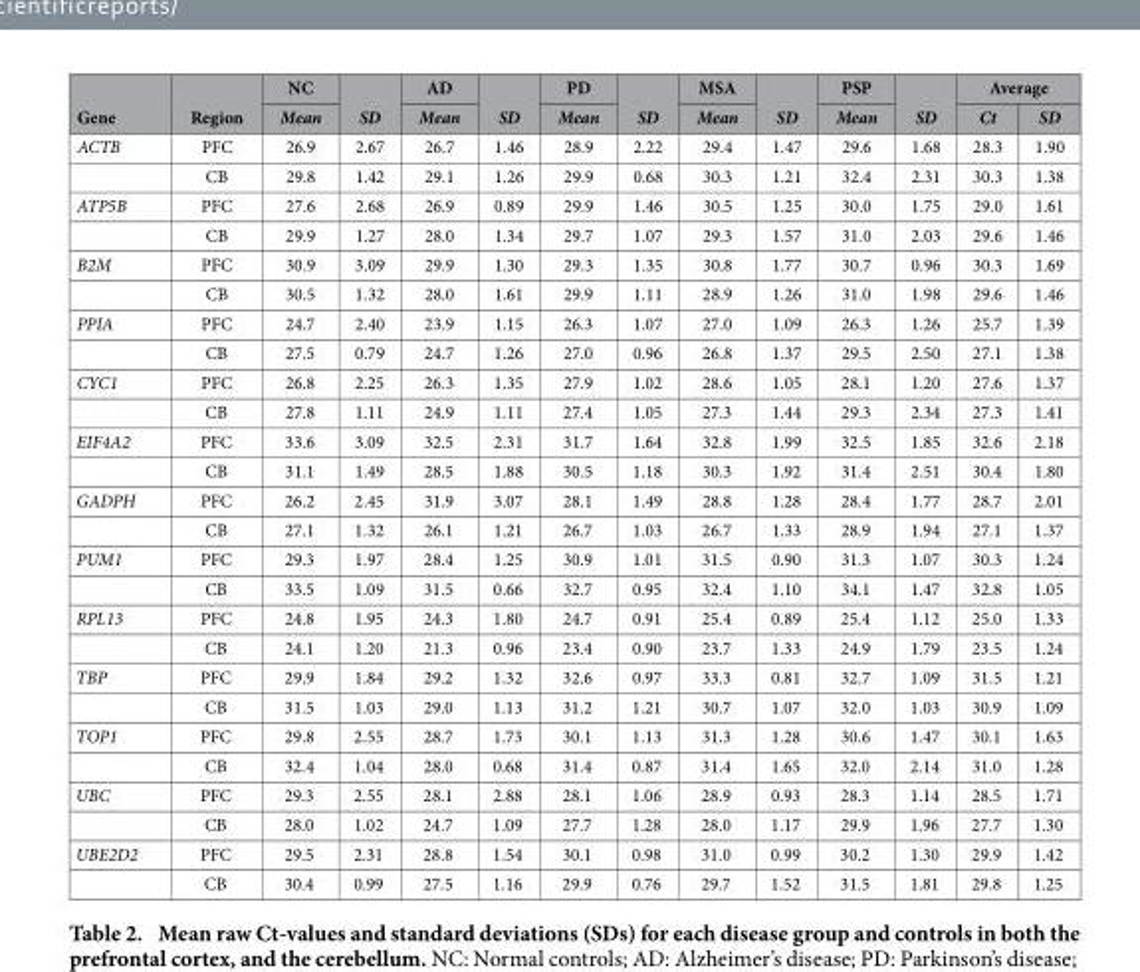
<table><thead><tr><td rowspan="2">Gene</td><td rowspan="2">Region</td><td rowspan="2">NC Mean</td><td rowspan="2">SD</td><td rowspan="2">AD Mean</td><td rowspan="2">SD</td><td rowspan="2">PD Mean</td><td rowspan="2">SD</td><td rowspan="2">MSA Mean</td><td rowspan="2">SD</td><td rowspan="2">PSP Mean</td><td rowspan="2">SD</td><td colspan="2">Average</td></tr><tr><td>Ct</td><td>SD</td></tr></thead><tbody><tr><td rowspan="2">ACTB</td><td>PFC</td><td>26.9</td><td>2.67</td><td>26.7</td><td>1.46</td><td>28.9</td><td>2.22</td><td>29.4</td><td>1.47</td><td>29.6</td><td>1.68</td><td>28.3</td><td>1.90</td></tr><tr><td>CB</td><td>29.8</td><td>1.42</td><td>29.1</td><td>1.26</td><td>29.9</td><td>0.68</td><td>30.3</td><td>1.21</td><td>32.4</td><td>2.31</td><td>30.3</td><td>1.38</td></tr><tr><td rowspan="2">ATP5B</td><td>PFC</td><td>27.6</td><td>2.68</td><td>26.9</td><td>0.89</td><td>29.9</td><td>1.46</td><td>30.5</td><td>1.25</td><td>30.0</td><td>1.75</td><td>29.0</td><td>1.61</td></tr><tr><td>CB</td><td>29.9</td><td>1.27</td><td>28.0</td><td>1.34</td><td>29.7</td><td>1.07</td><td>29.3</td><td>1.57</td><td>31.0</td><td>2.03</td><td>29.6</td><td>1.46</td></tr><tr><td rowspan="2">B2M</td><td>PFC</td><td>30.9</td><td>3.09</td><td>29.9</td><td>1.30</td><td>29.3</td><td>1.35</td><td>30.8</td><td>1.77</td><td>30.7</td><td>0.96</td><td>30.3</td><td>1.69</td></tr><tr><td>CB</td><td>30.5</td><td>1.32</td><td>28.0</td><td>1.61</td><td>29.9</td><td>1.11</td><td>28.9</td><td>1.26</td><td>31.0</td><td>1.98</td><td>29.6</td><td>1.46</td></tr><tr><td rowspan="2">PPIA</td><td>PFC</td><td>24.7</td><td>2.40</td><td>23.9</td><td>1.15</td><td>26.3</td><td>1.07</td><td>27.0</td><td>1.09</td><td>26.3</td><td>1.26</td><td>25.7</td><td>1.39</td></tr><tr><td>CB</td><td>27.5</td><td>0.79</td><td>24.7</td><td>1.26</td><td>27.0</td><td>0.96</td><td>26.8</td><td>1.37</td><td>29.5</td><td>2.50</td><td>27.1</td><td>1.38</td></tr><tr><td rowspan="2">CYC1</td><td>PFC</td><td>26.8</td><td>2.25</td><td>26.3</td><td>1.35</td><td>27.9</td><td>1.02</td><td>28.6</td><td>1.05</td><td>28.1</td><td>1.20</td><td>27.6</td><td>1.37</td></tr><tr><td>CB</td><td>27.8</td><td>1.11</td><td>24.9</td><td>1.11</td><td>27.4</td><td>1.05</td><td>27.3</td><td>1.44</td><td>29.3</td><td>2.34</td><td>27.3</td><td>1.41</td></tr><tr><td rowspan="2">EIF4A2</td><td>PFC</td><td>33.6</td><td>3.09</td><td>32.5</td><td>2.31</td><td>31.7</td><td>1.64</td><td>32.8</td><td>1.99</td><td>32.5</td><td>1.85</td><td>32.6</td><td>2.18</td></tr><tr><td>CB</td><td>31.1</td><td>1.49</td><td>28.5</td><td>1.88</td><td>30.5</td><td>1.18</td><td>30.3</td><td>1.92</td><td>31.4</td><td>2.51</td><td>30.4</td><td>1.80</td></tr><tr><td rowspan="2">GADPH</td><td>PFC</td><td>26.2</td><td>2.45</td><td>31.9</td><td>3.07</td><td>28.1</td><td>1.49</td><td>28.8</td><td>1.28</td><td>28.4</td><td>1.77</td><td>28.7</td><td>2.01</td></tr><tr><td>CB</td><td>27.1</td><td>1.32</td><td>26.1</td><td>1.21</td><td>26.7</td><td>1.03</td><td>26.7</td><td>1.33</td><td>28.9</td><td>1.94</td><td>27.1</td><td>1.37</td></tr><tr><td rowspan="2">PUM1</td><td>PFC</td><td>29.3</td><td>1.97</td><td>28.4</td><td>1.25</td><td>30.9</td><td>1.01</td><td>31.5</td><td>0.90</td><td>31.3</td><td>1.07</td><td>30.3</td><td>1.24</td></tr><tr><td>CB</td><td>33.5</td><td>1.09</td><td>31.5</td><td>0.66</td><td>32.7</td><td>0.95</td><td>32.4</td><td>1.10</td><td>34.1</td><td>1.47</td><td>32.8</td><td>1.05</td></tr><tr><td rowspan="2">RPL13</td><td>PFC</td><td>24.8</td><td>1.95</td><td>24.3</td><td>1.80</td><td>24.7</td><td>0.91</td><td>25.4</td><td>0.89</td><td>25.4</td><td>1.12</td><td>25.0</td><td>1.33</td></tr><tr><td>CB</td><td>24.1</td><td>1.20</td><td>21.3</td><td>0.96</td><td>23.4</td><td>0.90</td><td>23.7</td><td>1.33</td><td>24.9</td><td>1.79</td><td>23.5</td><td>1.24</td></tr><tr><td rowspan="2">TBP</td><td>PFC</td><td>29.9</td><td>1.84</td><td>29.2</td><td>1.32</td><td>32.6</td><td>0.97</td><td>33.3</td><td>0.81</td><td>32.7</td><td>1.09</td><td>31.5</td><td>1.21</td></tr><tr><td>CB</td><td>31.5</td><td>1.03</td><td>29.0</td><td>1.13</td><td>31.2</td><td>1.21</td><td>30.7</td><td>1.07</td><td>32.0</td><td>1.03</td><td>30.9</td><td>1.09</td></tr><tr><td rowspan="2">TOP1</td><td>PFC</td><td>29.8</td><td>2.55</td><td>28.7</td><td>1.73</td><td>30.1</td><td>1.13</td><td>31.3</td><td>1.28</td><td>30.6</td><td>1.47</td><td>30.1</td><td>1.63</td></tr><tr><td>CB</td><td>32.4</td><td>1.04</td><td>28.0</td><td>0.68</td><td>31.4</td><td>0.87</td><td>31.4</td><td>1.65</td><td>32.0</td><td>2.14</td><td>31.0</td><td>1.28</td></tr><tr><td rowspan="2">UBC</td><td>PFC</td><td>29.3</td><td>2.55</td><td>28.1</td><td>2.88</td><td>28.1</td><td>1.06</td><td>28.9</td><td>0.93</td><td>28.3</td><td>1.14</td><td>28.5</td><td>1.71</td></tr><tr><td>CB</td><td>28.0</td><td>1.02</td><td>24.7</td><td>1.09</td><td>27.7</td><td>1.28</td><td>28.0</td><td>1.17</td><td>29.9</td><td>1.96</td><td>27.7</td><td>1.30</td></tr><tr><td rowspan="2">UBE2D2</td><td>PFC</td><td>29.5</td><td>2.31</td><td>28.8</td><td>1.54</td><td>30.1</td><td>0.98</td><td>31.0</td><td>0.99</td><td>30.2</td><td>1.30</td><td>29.9</td><td>1.42</td></tr><tr><td>CB</td><td>30.4</td><td>0.99</td><td>27.5</td><td>1.16</td><td>29.9</td><td>0.76</td><td>29.7</td><td>1.52</td><td>31.5</td><td>1.81</td><td>29.8</td><td>1.25</td></tr></tbody></table>